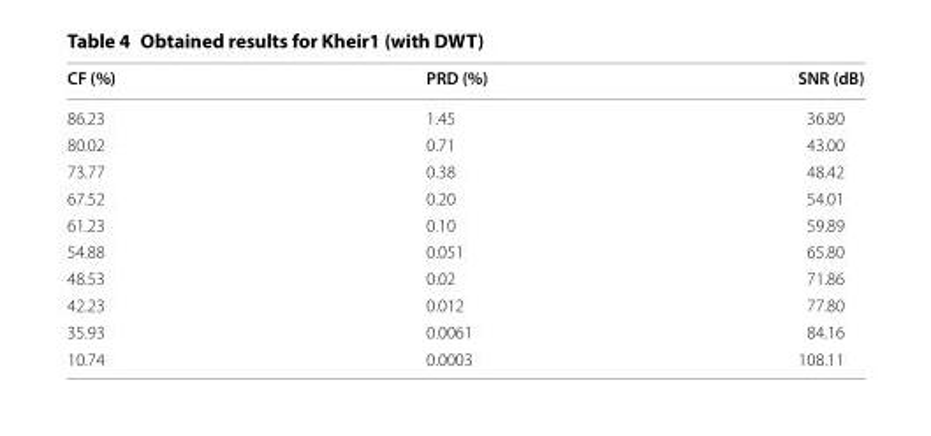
<table><thead><tr><td>CF (%)</td><td>PRD (%)</td><td>SNR (dB)</td></tr></thead><tbody><tr><td>86.23</td><td>1.45</td><td>36.80</td></tr><tr><td>80.02</td><td>0.71</td><td>43.00</td></tr><tr><td>73.77</td><td>0.38</td><td>48.42</td></tr><tr><td>67.52</td><td>0.20</td><td>54.01</td></tr><tr><td>61.23</td><td>0.10</td><td>59.89</td></tr><tr><td>54.88</td><td>0.051</td><td>65.80</td></tr><tr><td>48.53</td><td>0.02</td><td>71.86</td></tr><tr><td>42.23</td><td>0.012</td><td>77.80</td></tr><tr><td>35.93</td><td>0.0061</td><td>84.16</td></tr><tr><td>10.74</td><td>0.0003</td><td>108.11</td></tr></tbody></table>